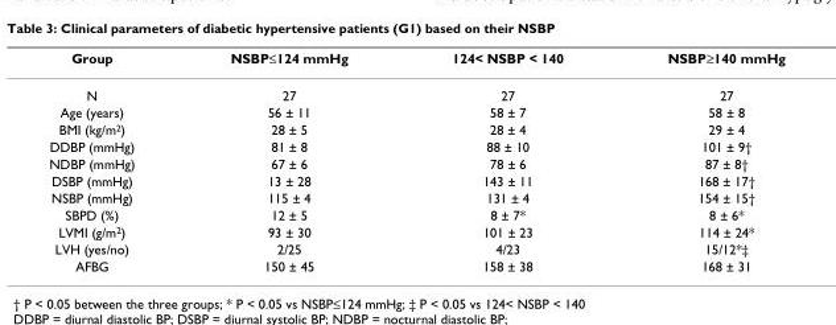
<table><thead><tr><td>Group</td><td>NSBP≤124 mmHg</td><td>124&lt; NSBP &lt; 140</td><td>NSBP≥140 mmHg</td></tr></thead><tbody><tr><td>N</td><td>27</td><td>27</td><td>27</td></tr><tr><td>Age (years)</td><td>56 ± 11</td><td>58 ± 7</td><td>58 ± 8</td></tr><tr><td>BMI (kg/m<sup>2</sup>)</td><td>28 ± 5</td><td>28 ± 4</td><td>29 ± 4</td></tr><tr><td>DDBP (mmHg)</td><td>81 ± 8</td><td>88 ± 10</td><td>101 ± 9†</td></tr><tr><td>NDBP (mmHg)</td><td>67 ± 6</td><td>78 ± 6</td><td>87 ± 8†</td></tr><tr><td>DSBP (mmHg)</td><td>13 ± 28</td><td>143 ± 11</td><td>168 ± 17†</td></tr><tr><td>NSBP (mmHg)</td><td>115 ± 4</td><td>131 ± 4</td><td>154 ± 15†</td></tr><tr><td>SBPD (%)</td><td>12 ± 5</td><td>8 ± 7*</td><td>8 ± 6*</td></tr><tr><td>LVMI (g/m<sup>2</sup>)</td><td>93 ± 30</td><td>101 ± 23</td><td>114 ± 24*</td></tr><tr><td>LVH (yes/no)</td><td>2/25</td><td>4/23</td><td>15/12*‡</td></tr><tr><td>AFBG</td><td>150 ± 45</td><td>158 ± 38</td><td>168 ± 31</td></tr></tbody></table>